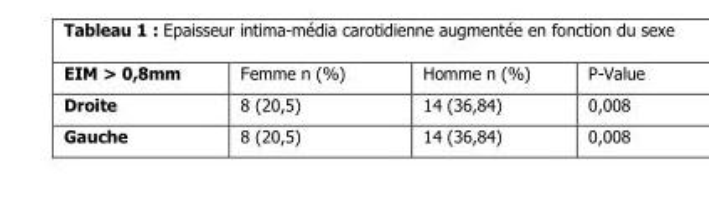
<table><thead><tr><td>EIM &gt; 0,8mm</td><td>Femme n (%)</td><td>Homme n (%)</td><td>P-Value</td></tr></thead><tbody><tr><td>Droite</td><td>8 (20,5)</td><td>14 (36,84)</td><td>0,008</td></tr><tr><td>Gauche</td><td>8 (20,5)</td><td>14 (36,84)</td><td>0,008</td></tr></tbody></table>